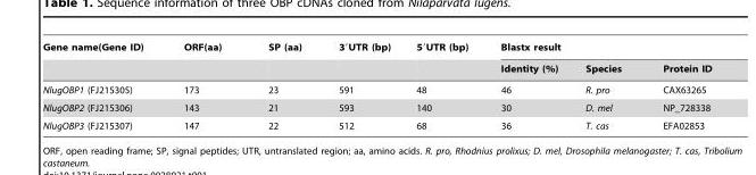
<table><thead><tr><td rowspan="2">Gene name(Gene ID)</td><td rowspan="2">ORF(aa)</td><td rowspan="2">SP (aa)</td><td rowspan="2">3′UTR (bp)</td><td rowspan="2">5′UTR (bp)</td><td colspan="3">Blastx result</td></tr><tr><td>Identity (%)</td><td>Species</td><td>Protein ID</td></tr></thead><tbody><tr><td>NlugOBP1 (FJ215305)</td><td>173</td><td>23</td><td>591</td><td>48</td><td>46</td><td>R. pro</td><td>CAX63265</td></tr><tr><td>NlugOBP2 (FJ215306)</td><td>143</td><td>21</td><td>593</td><td>140</td><td>30</td><td>D. mel</td><td>NP_728338</td></tr><tr><td>NlugOBP3 (FJ215307)</td><td>147</td><td>22</td><td>512</td><td>68</td><td>36</td><td>T. cas</td><td>EFA02853</td></tr></tbody></table>